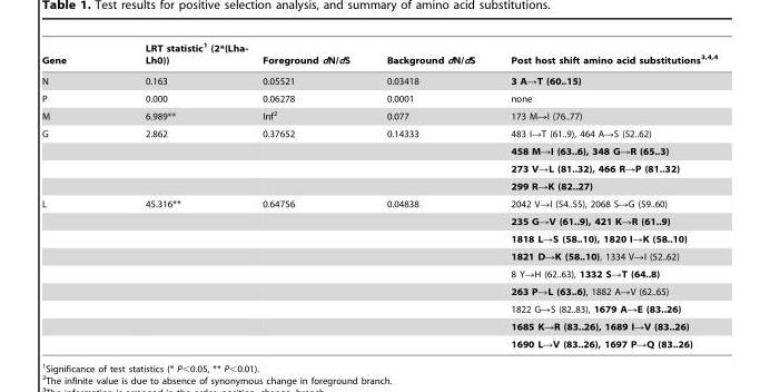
<table><thead><tr><td>Gene</td><td>LRT statistic<sup>1</sup> (2*(Lha- Lh0))</td><td>Foreground dN/dS</td><td>Background dN/dS</td><td>Post host shift amino acid substitutions<sup>3,4,</sup>4</td></tr></thead><tbody><tr><td>N</td><td>0.163</td><td>0.05521</td><td>0.03418</td><td>3 A→T (60..15)</td></tr><tr><td>P</td><td>0.000</td><td>0.06278</td><td>0.0001</td><td>none</td></tr><tr><td>M</td><td>6.989**</td><td>Inf<sup>2</sup></td><td>0.077</td><td>173 M→I (76..77)</td></tr><tr><td rowspan="4">G</td><td>2.862</td><td>0.37652</td><td>0.14333</td><td>483 I→T (61..9), 464 A→S (52..62)</td></tr><tr><td></td><td></td><td></td><td>458 M→I (63..6), 348 G→R (65..3)</td></tr><tr><td></td><td></td><td></td><td>273 V→L (81..32), 466 R→P (81..32)</td></tr><tr><td></td><td></td><td></td><td>299 R→K (82..27)</td></tr><tr><td rowspan="9">L</td><td>45.316**</td><td>0.64756</td><td>0.04838</td><td>2042 V→I (54..55), 2068 S→G (59..60)</td></tr><tr><td></td><td></td><td></td><td>235 G→V (61..9), 421 K→R (61..9)</td></tr><tr><td></td><td></td><td></td><td>1818 L→S (58..10), 1820 I→K (58..10)</td></tr><tr><td></td><td></td><td></td><td>1821 D→K (58..10), 1334 V→I (52..62)</td></tr><tr><td></td><td></td><td></td><td>8 Y→H (62..63), 1332 S→T (64..8)</td></tr><tr><td></td><td></td><td></td><td>263 P→L (63..6), 1882 A→V (62..65)</td></tr><tr><td></td><td></td><td></td><td>1822 G→S (82..83), 1679 A→E (83..26)</td></tr><tr><td></td><td></td><td></td><td>1685 K→R (83..26), 1689 I→V (83..26)</td></tr><tr><td></td><td></td><td></td><td>1690 L→V (83..26), 1697 P→Q (83..26)</td></tr></tbody></table>